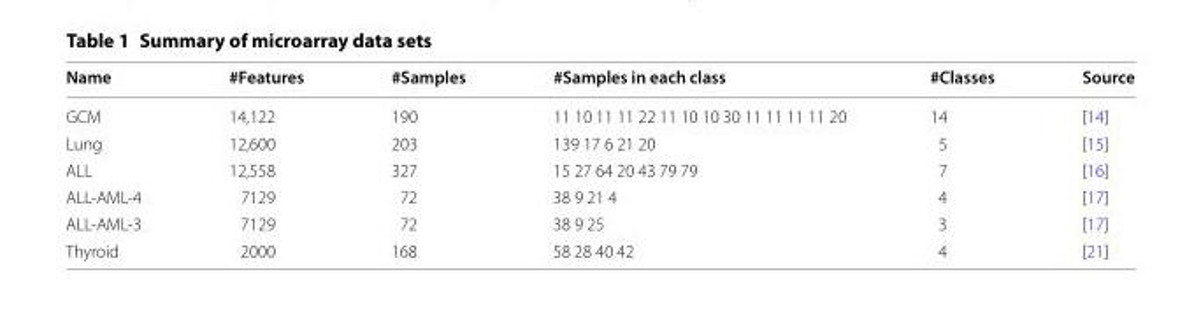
<table><thead><tr><td>Name</td><td>#Features</td><td>#Samples</td><td>#Samples in each class</td><td>#Classes</td><td>Source</td></tr></thead><tbody><tr><td>GCM</td><td>14,122</td><td>190</td><td>11 10 11 11 22 11 10 10 30 11 11 11 11 20</td><td>14</td><td>[14]</td></tr><tr><td>Lung</td><td>12,600</td><td>203</td><td>139 17 6 21 20</td><td>5</td><td>[15]</td></tr><tr><td>ALL</td><td>12,558</td><td>327</td><td>15 27 64 20 43 79 79</td><td>7</td><td>[16]</td></tr><tr><td>ALL-AML-4</td><td>7129</td><td>72</td><td>38 9 21 4</td><td>4</td><td>[17]</td></tr><tr><td>ALL-AML-3</td><td>7129</td><td>72</td><td>38 9 25</td><td>3</td><td>[17]</td></tr><tr><td>Thyroid</td><td>2000</td><td>168</td><td>58 28 40 42</td><td>4</td><td>[21]</td></tr></tbody></table>